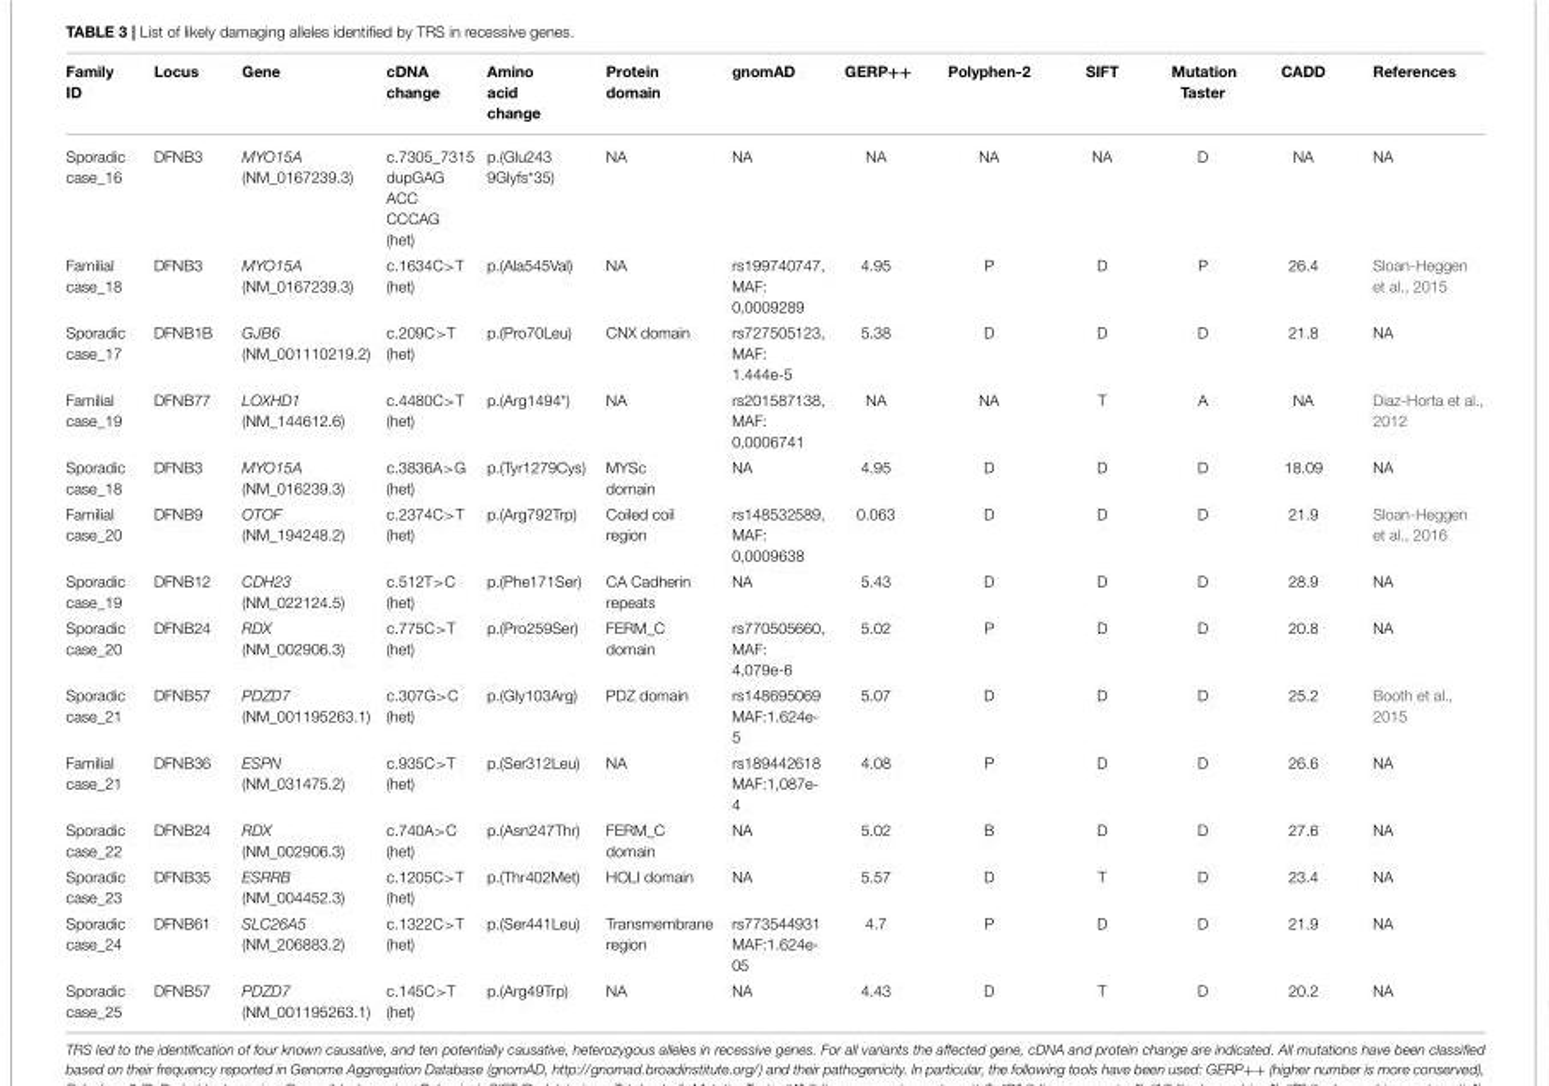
<table><thead><tr><td>Family ID</td><td>Locus</td><td>Gene</td><td>cDNA change</td><td>Amino acid change</td><td>Protein domain</td><td>gnomAD</td><td>GERP++</td><td>Polyphen-2</td><td>SIFT</td><td>Mutation Taster</td><td>CADD</td><td>References</td></tr></thead><tbody><tr><td>Sporadic case_16</td><td>DFNB3</td><td>MYO15A (NM_0167239.3)</td><td>c.7305_7315 dupGAG ACC CCCAG (het)</td><td>p.(Glu243 9Glyfs*35)</td><td>NA</td><td>NA</td><td>NA</td><td>NA</td><td>NA</td><td>D</td><td>NA</td><td>NA</td></tr><tr><td>Familial case_18</td><td>DFNB3</td><td>MYO15A (NM_0167239.3)</td><td>c.1634C&gt;T (het)</td><td>p.(Ala545Val)</td><td>NA</td><td>rs199740747, MAF: 0,0009289</td><td>4.95</td><td>P</td><td>D</td><td>P</td><td>26.4</td><td>Sloan-Heggen et al., 2015</td></tr><tr><td>Sporadic case_17</td><td>DFNB1B</td><td>GJB6 (NM_001110219.2)</td><td>c.209C&gt;T (het)</td><td>p.(Pro70Leu)</td><td>CNX domain</td><td>rs727505123, MAF: 1.444e-5</td><td>5.38</td><td>D</td><td>D</td><td>D</td><td>21.8</td><td>NA</td></tr><tr><td>Familial case_19</td><td>DFNB77</td><td>LOXHD1 (NM_144612.6)</td><td>c.4480C&gt;T (het)</td><td>p.(Arg1494*)</td><td>NA</td><td>rs201587138, MAF: 0,0006741</td><td>NA</td><td>NA</td><td>T</td><td>A</td><td>NA</td><td>Diaz-Horta et al., 2012</td></tr><tr><td>Sporadic case_18</td><td>DFNB3</td><td>MYO15A (NM_016239.3)</td><td>c.3836A&gt;G (het)</td><td>p.(Tyr1279Cys)</td><td>MYSc domain</td><td>NA</td><td>4.95</td><td>D</td><td>D</td><td>D</td><td>18.09</td><td>NA</td></tr><tr><td>Familial case_20</td><td>DFNB9</td><td>OTOF (NM_194248.2)</td><td>c.2374C&gt;T (het)</td><td>p.(Arg792Trp)</td><td>Coiled coil region</td><td>rs148532589, MAF: 0,0009638</td><td>0.063</td><td>D</td><td>D</td><td>D</td><td>21.9</td><td>Sloan-Heggen et al., 2016</td></tr><tr><td>Sporadic case_19</td><td>DFNB12</td><td>CDH23 (NM_022124.5)</td><td>c.512T&gt;C (het)</td><td>p.(Phe171Ser)</td><td>CA Cadherin repeats</td><td>NA</td><td>5.43</td><td>D</td><td>D</td><td>D</td><td>28.9</td><td>NA</td></tr><tr><td>Sporadic case_20</td><td>DFNB24</td><td>RDX (NM_002906.3)</td><td>c.775C&gt;T (het)</td><td>p.(Pro259Ser)</td><td>FERM_C domain</td><td>rs770505660, MAF: 4,079e-6</td><td>5.02</td><td>P</td><td>D</td><td>D</td><td>20.8</td><td>NA</td></tr><tr><td>Sporadic case_21</td><td>DFNB57</td><td>PDZD7 (NM_001195263.1)</td><td>c.307G&gt;C (het)</td><td>p.(Gly103Arg)</td><td>PDZ domain</td><td>rs148695069 MAF:1.624e- 5</td><td>5.07</td><td>D</td><td>D</td><td>D</td><td>25.2</td><td>Booth et al., 2015</td></tr><tr><td>Familial case_21</td><td>DFNB36</td><td>ESPN (NM_031475.2)</td><td>c.935C&gt;T (het)</td><td>p.(Ser312Leu)</td><td>NA</td><td>rs189442618 MAF:1,087e- 4</td><td>4.08</td><td>P</td><td>D</td><td>D</td><td>26.6</td><td>NA</td></tr><tr><td>Sporadic case_22</td><td>DFNB24</td><td>RDX (NM_002906.3)</td><td>c.740A&gt;C (het)</td><td>p.(Asn247Thr)</td><td>FERM_C domain</td><td>NA</td><td>5.02</td><td>B</td><td>D</td><td>D</td><td>27.6</td><td>NA</td></tr><tr><td>Sporadic case_23</td><td>DFNB35</td><td>ESRRB (NM_004452.3)</td><td>c.1205C&gt;T (het)</td><td>p.(Thr402Met)</td><td>HOLI domain</td><td>NA</td><td>5.57</td><td>D</td><td>T</td><td>D</td><td>23.4</td><td>NA</td></tr><tr><td>Sporadic case_24</td><td>DFNB61</td><td>SLC26A5 (NM_206883.2)</td><td>c.1322C&gt;T (het)</td><td>p.(Ser441Leu)</td><td>Transmembrane region</td><td>rs773544931 MAF:1.624e- 05</td><td>4.7</td><td>P</td><td>D</td><td>D</td><td>21.9</td><td>NA</td></tr><tr><td>Sporadic case_25</td><td>DFNB57</td><td>PDZD7 (NM_001195263.1)</td><td>c.145C&gt;T (het)</td><td>p.(Arg49Trp)</td><td>NA</td><td>NA</td><td>4.43</td><td>D</td><td>T</td><td>D</td><td>20.2</td><td>NA</td></tr></tbody></table>